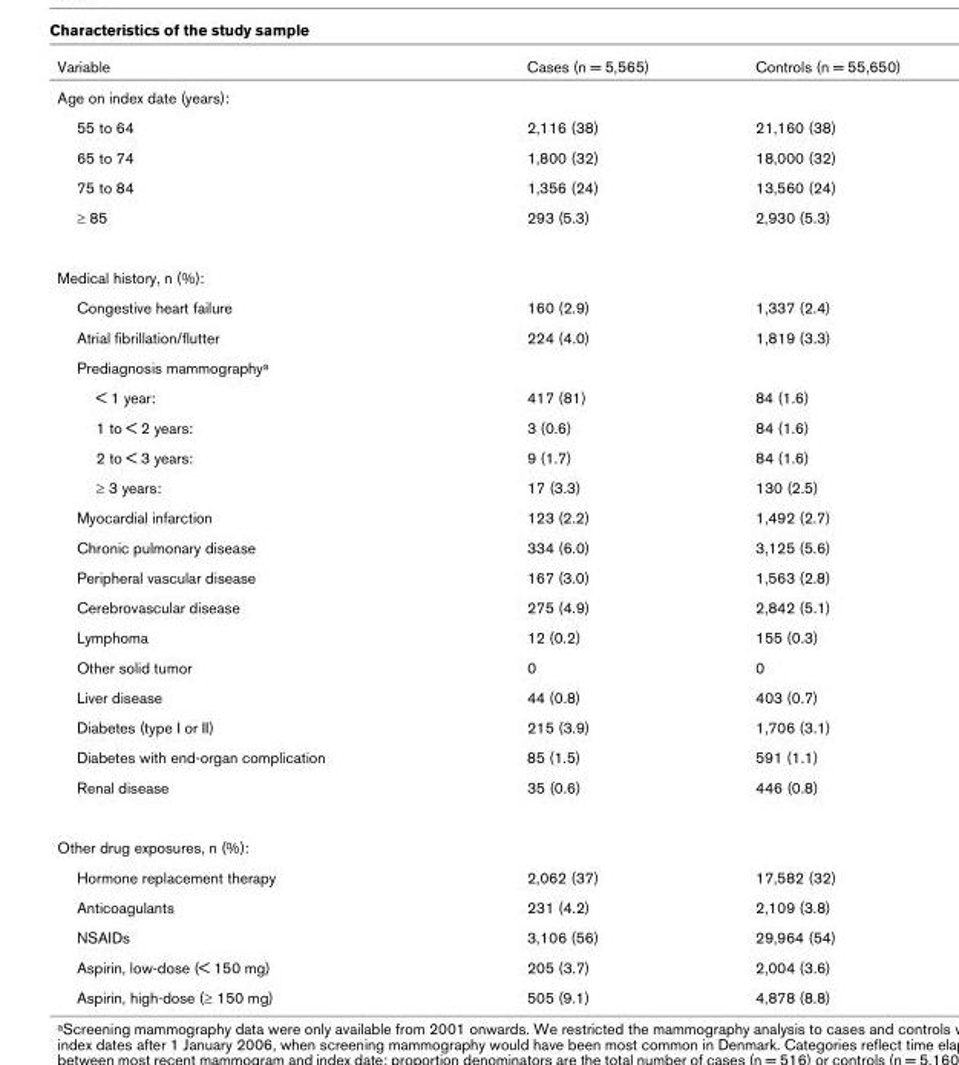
<table><thead><tr><td>Variable</td><td>Cases (n = 5,565)</td><td>Controls (n = 55,650)</td></tr></thead><tbody><tr><td colspan="3">Age on index date (years):</td></tr><tr><td>55 to 64</td><td>2,116 (38)</td><td>21,160 (38)</td></tr><tr><td>65 to 74</td><td>1,800 (32)</td><td>18,000 (32)</td></tr><tr><td>75 to 84</td><td>1,356 (24)</td><td>13,560 (24)</td></tr><tr><td>≥ 85</td><td>293 (5.3)</td><td>2,930 (5.3)</td></tr><tr><td colspan="3">Medical history, n (%):</td></tr><tr><td>Congestive heart failure</td><td>160 (2.9)</td><td>1,337 (2.4)</td></tr><tr><td>Atrial fibrillation/flutter</td><td>224 (4.0)</td><td>1,819 (3.3)</td></tr><tr><td colspan="3">Prediagnosis mammography<sup>a</sup></td></tr><tr><td>&lt; 1 year:</td><td>417 (81)</td><td>84 (1.6)</td></tr><tr><td>1 to &lt; 2 years:</td><td>3 (0.6)</td><td>84 (1.6)</td></tr><tr><td>2 to &lt; 3 years:</td><td>9 (1.7)</td><td>84 (1.6)</td></tr><tr><td>≥ 3 years:</td><td>17 (3.3)</td><td>130 (2.5)</td></tr><tr><td>Myocardial infarction</td><td>123 (2.2)</td><td>1,492 (2.7)</td></tr><tr><td>Chronic pulmonary disease</td><td>334 (6.0)</td><td>3,125 (5.6)</td></tr><tr><td>Peripheral vascular disease</td><td>167 (3.0)</td><td>1,563 (2.8)</td></tr><tr><td>Cerebrovascular disease</td><td>275 (4.9)</td><td>2,842 (5.1)</td></tr><tr><td>Lymphoma</td><td>12 (0.2)</td><td>155 (0.3)</td></tr><tr><td>Other solid tumor</td><td>0</td><td>0</td></tr><tr><td>Liver disease</td><td>44 (0.8)</td><td>403 (0.7)</td></tr><tr><td>Diabetes (type I or II)</td><td>215 (3.9)</td><td>1,706 (3.1)</td></tr><tr><td>Diabetes with end-organ complication</td><td>85 (1.5)</td><td>591 (1.1)</td></tr><tr><td>Renal disease</td><td>35 (0.6)</td><td>446 (0.8)</td></tr><tr><td colspan="3">Other drug exposures, n (%):</td></tr><tr><td>Hormone replacement therapy</td><td>2,062 (37)</td><td>17,582 (32)</td></tr><tr><td>Anticoagulants</td><td>231 (4.2)</td><td>2,109 (3.8)</td></tr><tr><td>NSAIDs</td><td>3,106 (56)</td><td>29,964 (54)</td></tr><tr><td>Aspirin, low-dose (&lt; 150 mg)</td><td>205 (3.7)</td><td>2,004 (3.6)</td></tr><tr><td>Aspirin, high-dose (≥ 150 mg)</td><td>505 (9.1)</td><td>4,878 (8.8)</td></tr></tbody></table>